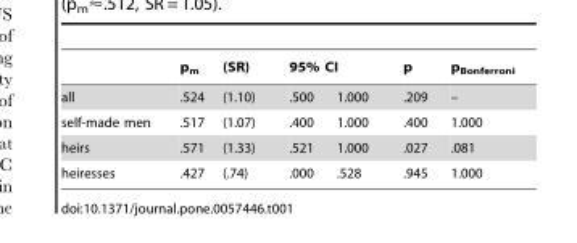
<table><thead><tr><td rowspan="2">all</td><td rowspan="2">p<sub>m</sub> .524</td><td rowspan="2">(SR) (1.10)</td><td colspan="2">95% CI</td><td rowspan="2">p .209</td><td rowspan="2">p<sub>Bonferroni</sub> –</td></tr><tr><td>.500</td><td>1.000</td></tr></thead><tbody><tr><td>self-made men</td><td>.517</td><td>(1.07)</td><td>.400</td><td>1.000</td><td>.400</td><td>1.000</td></tr><tr><td>heirs</td><td>.571</td><td>(1.33)</td><td>.521</td><td>1.000</td><td>.027</td><td>.081</td></tr><tr><td>heiresses</td><td>.427</td><td>(.74)</td><td>.000</td><td>.528</td><td>.945</td><td>1.000</td></tr></tbody></table>